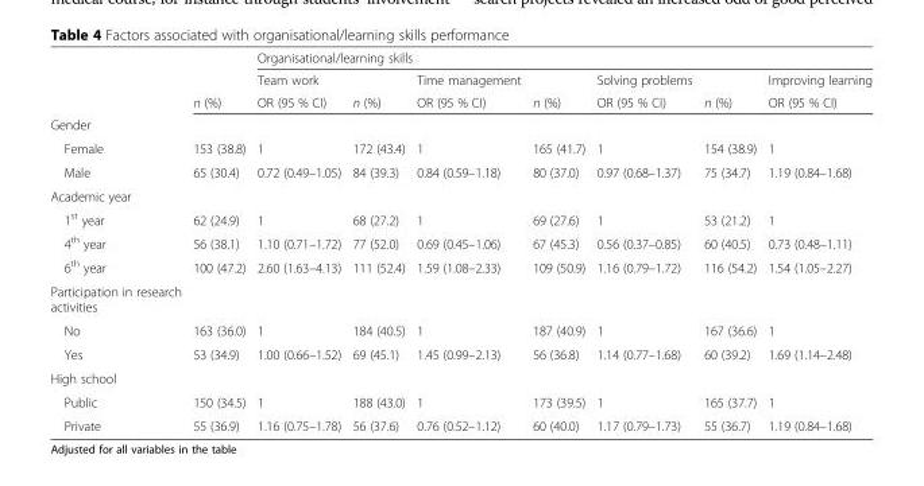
<table><thead><tr><td rowspan="3"></td><td rowspan="3">n (%)</td><td colspan="7">Organisational/learning skills</td></tr><tr><td rowspan="2">Team work OR (95 % CI)</td><td rowspan="2">n (%)</td><td rowspan="2">Time management OR (95 % CI)</td><td rowspan="2">n (%)</td><td rowspan="2">Solving problems OR (95 % CI)</td><td rowspan="2">n (%)</td><td rowspan="2">Improving learning OR (95 % CI)</td></tr><tr></tr></thead><tbody><tr><td colspan="9">Gender</td></tr><tr><td>Female</td><td>153 (38.8)</td><td>1</td><td>172 (43.4)</td><td>1</td><td>165 (41.7)</td><td>1</td><td>154 (38.9)</td><td>1</td></tr><tr><td>Male</td><td>65 (30.4)</td><td>0.72 (0.49–1.05)</td><td>84 (39.3)</td><td>0.84 (0.59–1.18)</td><td>80 (37.0)</td><td>0.97 (0.68–1.37)</td><td>75 (34.7)</td><td>1.19 (0.84–1.68)</td></tr><tr><td colspan="9">Academic year</td></tr><tr><td>1<sup>st</sup> year</td><td>62 (24.9)</td><td>1</td><td>68 (27.2)</td><td>1</td><td>69 (27.6)</td><td>1</td><td>53 (21.2)</td><td>1</td></tr><tr><td>4<sup>th</sup> year</td><td>56 (38.1)</td><td>1.10 (0.71–1.72)</td><td>77 (52.0)</td><td>0.69 (0.45–1.06)</td><td>67 (45.3)</td><td>0.56 (0.37–0.85)</td><td>60 (40.5)</td><td>0.73 (0.48–1.11)</td></tr><tr><td>6<sup>th</sup> year</td><td>100 (47.2)</td><td>2.60 (1.63–4.13)</td><td>111 (52.4)</td><td>1.59 (1.08–2.33)</td><td>109 (50.9)</td><td>1.16 (0.79–1.72)</td><td>116 (54.2)</td><td>1.54 (1.05–2.27)</td></tr><tr><td colspan="9">Participation in research activities</td></tr><tr><td>No</td><td>163 (36.0)</td><td>1</td><td>184 (40.5)</td><td>1</td><td>187 (40.9)</td><td>1</td><td>167 (36.6)</td><td>1</td></tr><tr><td>Yes</td><td>53 (34.9)</td><td>1.00 (0.66–1.52)</td><td>69 (45.1)</td><td>1.45 (0.99–2.13)</td><td>56 (36.8)</td><td>1.14 (0.77–1.68)</td><td>60 (39.2)</td><td>1.69 (1.14–2.48)</td></tr><tr><td colspan="9">High school</td></tr><tr><td>Public</td><td>150 (34.5)</td><td>1</td><td>188 (43.0)</td><td>1</td><td>173 (39.5)</td><td>1</td><td>165 (37.7)</td><td>1</td></tr><tr><td>Private</td><td>55 (36.9)</td><td>1.16 (0.75–1.78)</td><td>56 (37.6)</td><td>0.76 (0.52–1.12)</td><td>60 (40.0)</td><td>1.17 (0.79–1.73)</td><td>55 (36.7)</td><td>1.19 (0.84–1.68)</td></tr></tbody></table>